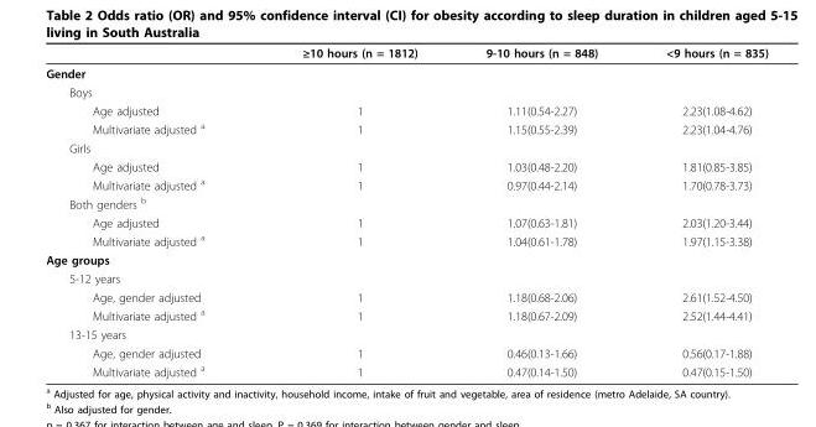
<table><thead><tr><td></td><td>≥10 hours (n = 1812)</td><td>9-10 hours (n = 848)</td><td>&lt;9 hours (n = 835)</td></tr></thead><tbody><tr><td colspan="4">Gender</td></tr><tr><td colspan="4">Boys</td></tr><tr><td>Age adjusted</td><td>1</td><td>1.11(0.54-2.27)</td><td>2.23(1.08-4.62)</td></tr><tr><td>Multivariate adjusted <sup>a</sup></td><td>1</td><td>1.15(0.55-2.39)</td><td>2.23(1.04-4.76)</td></tr><tr><td colspan="4">Girls</td></tr><tr><td>Age adjusted</td><td>1</td><td>1.03(0.48-2.20)</td><td>1.81(0.85-3.85)</td></tr><tr><td>Multivariate adjusted <sup>a</sup></td><td>1</td><td>0.97(0.44-2.14)</td><td>1.70(0.78-3.73)</td></tr><tr><td colspan="4">Both genders <sup>b</sup></td></tr><tr><td>Age adjusted</td><td>1</td><td>1.07(0.63-1.81)</td><td>2.03(1.20-3.44)</td></tr><tr><td>Multivariate adjusted <sup>a</sup></td><td>1</td><td>1.04(0.61-1.78)</td><td>1.97(1.15-3.38)</td></tr><tr><td colspan="4">Age groups</td></tr><tr><td colspan="4">5-12 years</td></tr><tr><td>Age, gender adjusted</td><td>1</td><td>1.18(0.68-2.06)</td><td>2.61(1.52-4.50)</td></tr><tr><td>Multivariate adjusted <sup>a</sup></td><td>1</td><td>1.18(0.67-2.09)</td><td>2.52(1.44-4.41)</td></tr><tr><td colspan="4">13-15 years</td></tr><tr><td>Age, gender adjusted</td><td>1</td><td>0.46(0.13-1.66)</td><td>0.56(0.17-1.88)</td></tr><tr><td>Multivariate adjusted <sup>a</sup></td><td>1</td><td>0.47(0.14-1.50)</td><td>0.47(0.15-1.50)</td></tr></tbody></table>